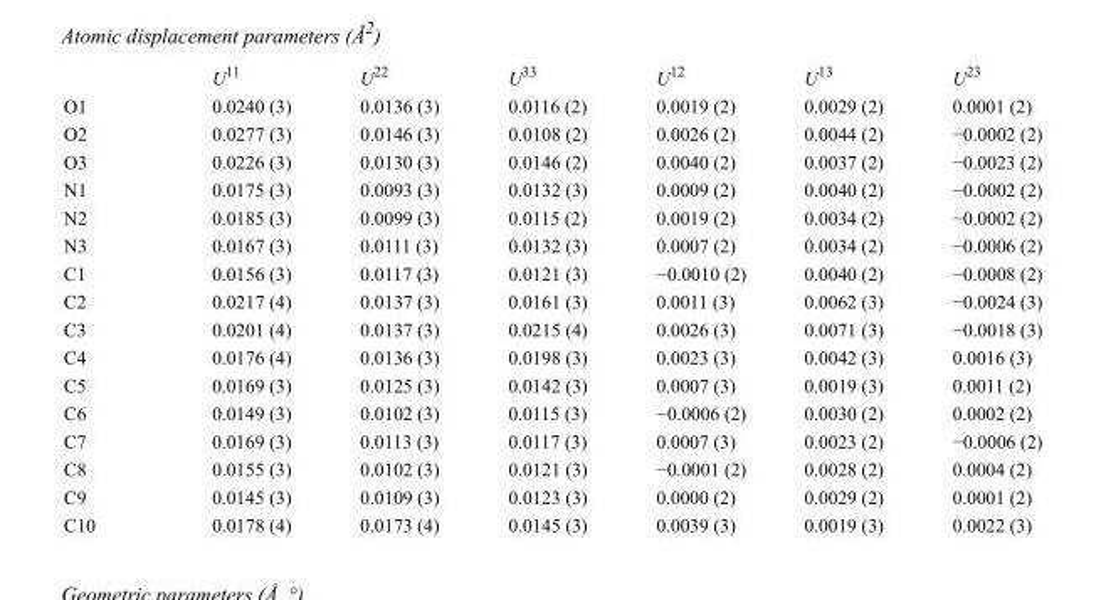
<table><thead><tr><td></td><td>U<sup>11</sup></td><td>U<sup>22</sup></td><td>U<sup>33</sup></td><td>U<sup>12</sup></td><td>U<sup>13</sup></td><td>U<sup>23</sup></td></tr></thead><tbody><tr><td>O1</td><td>0.0240 (3)</td><td>0.0136 (3)</td><td>0.0116 (2)</td><td>0.0019 (2)</td><td>0.0029 (2)</td><td>0.0001 (2)</td></tr><tr><td>O2</td><td>0.0277 (3)</td><td>0.0146 (3)</td><td>0.0108 (2)</td><td>0.0026 (2)</td><td>0.0044 (2)</td><td>−0.0002 (2)</td></tr><tr><td>O3</td><td>0.0226 (3)</td><td>0.0130 (3)</td><td>0.0146 (2)</td><td>0.0040 (2)</td><td>0.0037 (2)</td><td>−0.0023 (2)</td></tr><tr><td>N1</td><td>0.0175 (3)</td><td>0.0093 (3)</td><td>0.0132 (3)</td><td>0.0009 (2)</td><td>0.0040 (2)</td><td>−0.0002 (2)</td></tr><tr><td>N2</td><td>0.0185 (3)</td><td>0.0099 (3)</td><td>0.0115 (2)</td><td>0.0019 (2)</td><td>0.0034 (2)</td><td>−0.0002 (2)</td></tr><tr><td>N3</td><td>0.0167 (3)</td><td>0.0111 (3)</td><td>0.0132 (3)</td><td>0.0007 (2)</td><td>0.0034 (2)</td><td>−0.0006 (2)</td></tr><tr><td>C1</td><td>0.0156 (3)</td><td>0.0117 (3)</td><td>0.0121 (3)</td><td>−0.0010 (2)</td><td>0.0040 (2)</td><td>−0.0008 (2)</td></tr><tr><td>C2</td><td>0.0217 (4)</td><td>0.0137 (3)</td><td>0.0161 (3)</td><td>0.0011 (3)</td><td>0.0062 (3)</td><td>−0.0024 (3)</td></tr><tr><td>C3</td><td>0.0201 (4)</td><td>0.0137 (3)</td><td>0.0215 (4)</td><td>0.0026 (3)</td><td>0.0071 (3)</td><td>−0.0018 (3)</td></tr><tr><td>C4</td><td>0.0176 (4)</td><td>0.0136 (3)</td><td>0.0198 (3)</td><td>0.0023 (3)</td><td>0.0042 (3)</td><td>0.0016 (3)</td></tr><tr><td>C5</td><td>0.0169 (3)</td><td>0.0125 (3)</td><td>0.0142 (3)</td><td>0.0007 (3)</td><td>0.0019 (3)</td><td>0.0011 (2)</td></tr><tr><td>C6</td><td>0.0149 (3)</td><td>0.0102 (3)</td><td>0.0115 (3)</td><td>−0.0006 (2)</td><td>0.0030 (2)</td><td>0.0002 (2)</td></tr><tr><td>C7</td><td>0.0169 (3)</td><td>0.0113 (3)</td><td>0.0117 (3)</td><td>0.0007 (3)</td><td>0.0023 (2)</td><td>−0.0006 (2)</td></tr><tr><td>C8</td><td>0.0155 (3)</td><td>0.0102 (3)</td><td>0.0121 (3)</td><td>−0.0001 (2)</td><td>0.0028 (2)</td><td>0.0004 (2)</td></tr><tr><td>C9</td><td>0.0145 (3)</td><td>0.0109 (3)</td><td>0.0123 (3)</td><td>0.0000 (2)</td><td>0.0029 (2)</td><td>0.0001 (2)</td></tr><tr><td>C10</td><td>0.0178 (4)</td><td>0.0173 (4)</td><td>0.0145 (3)</td><td>0.0039 (3)</td><td>0.0019 (3)</td><td>0.0022 (3)</td></tr></tbody></table>